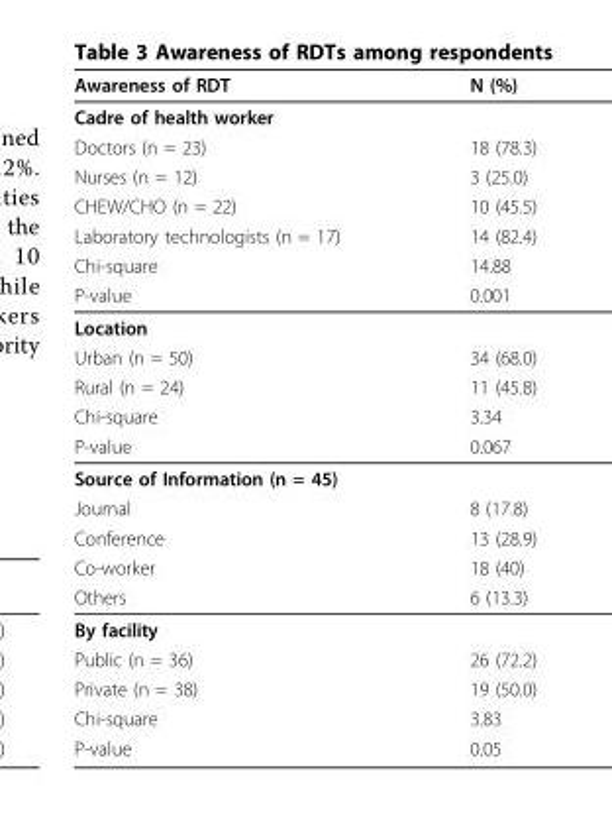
<table><thead><tr><td>Awareness of RDT</td><td>N (%)</td></tr></thead><tbody><tr><td colspan="2">Cadre of health worker</td></tr><tr><td>Doctors (n = 23)</td><td>18 (78.3)</td></tr><tr><td>Nurses (n = 12)</td><td>3 (25.0)</td></tr><tr><td>CHEW/CHO (n = 22)</td><td>10 (45.5)</td></tr><tr><td>Laboratory technologists (n = 17)</td><td>14 (82.4)</td></tr><tr><td>Chi-square</td><td>14.88</td></tr><tr><td>P-value</td><td>0.001</td></tr><tr><td colspan="2">Location</td></tr><tr><td>Urban (n = 50)</td><td>34 (68.0)</td></tr><tr><td>Rural (n = 24)</td><td>11 (45.8)</td></tr><tr><td>Chi-square</td><td>3.34</td></tr><tr><td>P-value</td><td>0.067</td></tr><tr><td colspan="2">Source of Information (n = 45)</td></tr><tr><td>Journal</td><td>8 (17.8)</td></tr><tr><td>Conference</td><td>13 (28.9)</td></tr><tr><td>Co-worker</td><td>18 (40)</td></tr><tr><td>Others</td><td>6 (13.3)</td></tr><tr><td colspan="2">By facility</td></tr><tr><td>Public (n = 36)</td><td>26 (72.2)</td></tr><tr><td>Private (n = 38)</td><td>19 (50.0)</td></tr><tr><td>Chi-square</td><td>3.83</td></tr><tr><td>P-value</td><td>0.05</td></tr></tbody></table>